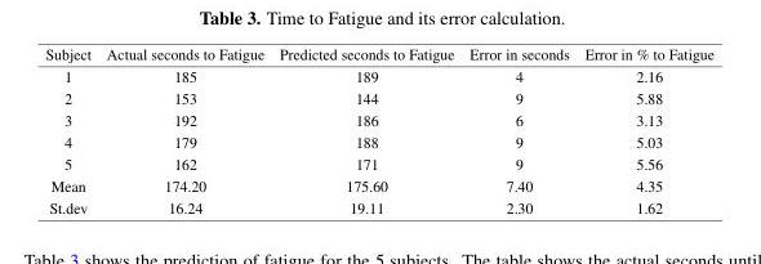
<table><thead><tr><td>Subject</td><td>Actual seconds to Fatigue</td><td>Predicted seconds to Fatigue</td><td>Error in seconds</td><td>Error in % to Fatigue</td></tr></thead><tbody><tr><td>1</td><td>185</td><td>189</td><td>4</td><td>2.16</td></tr><tr><td>2</td><td>153</td><td>144</td><td>9</td><td>5.88</td></tr><tr><td>3</td><td>192</td><td>186</td><td>6</td><td>3.13</td></tr><tr><td>4</td><td>179</td><td>188</td><td>9</td><td>5.03</td></tr><tr><td>5</td><td>162</td><td>171</td><td>9</td><td>5.56</td></tr><tr><td>Mean</td><td>174.20</td><td>175.60</td><td>7.40</td><td>4.35</td></tr><tr><td>St.dev</td><td>16.24</td><td>19.11</td><td>2.30</td><td>1.62</td></tr></tbody></table>